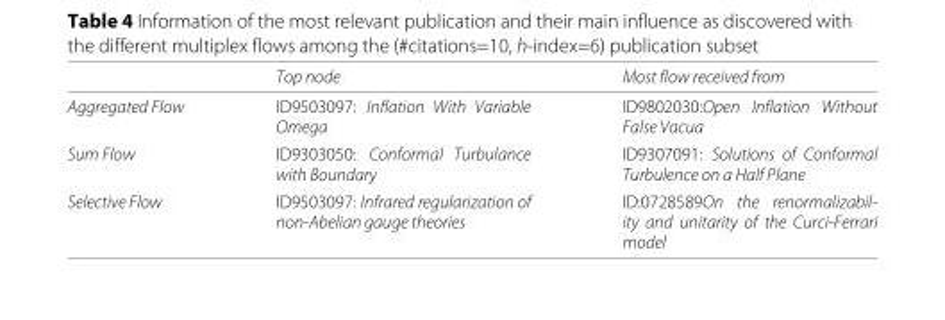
<table><thead><tr><td></td><td>Top node</td><td>Most flow received from</td></tr></thead><tbody><tr><td>Aggregated Flow</td><td>ID9503097: Inflation With Variable Omega</td><td>ID9802030:Open Inflation Without False Vacua</td></tr><tr><td>Sum Flow</td><td>ID9303050: Conformal Turbulance with Boundary</td><td>ID9307091: Solutions of Conformal Turbulence on a Half Plane</td></tr><tr><td>Selective Flow</td><td>ID9503097: Infrared regularization of non-Abelian gauge theories</td><td>ID:0728589On the renormalizabil- ity and unitarity of the Curci-Ferrari model</td></tr></tbody></table>